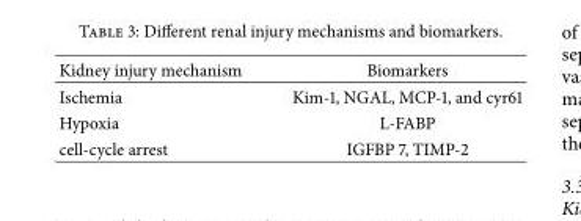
<table><thead><tr><td>Kidney injury mechanism</td><td>Biomarkers</td></tr></thead><tbody><tr><td>Ischemia</td><td>Kim-1, NGAL, MCP-1, and cyr61</td></tr><tr><td>Hypoxia</td><td>L-FABP</td></tr><tr><td>cell-cycle arrest</td><td>IGFBP 7, TIMP-2</td></tr></tbody></table>